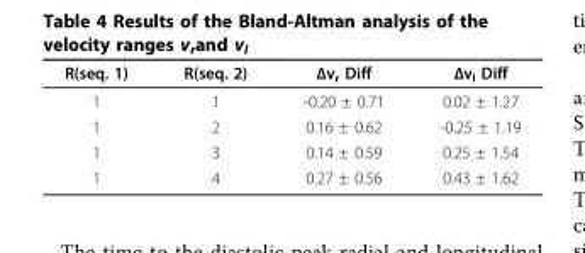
<table><thead><tr><td>R(seq. 1)</td><td>R(seq. 2)</td><td>Δv<sub>r</sub> Diff</td><td>Δv<sub>l</sub> Diff</td></tr></thead><tbody><tr><td>1</td><td>1</td><td>-0.20 ± 0.71</td><td>0.02 ± 1.27</td></tr><tr><td>1</td><td>2</td><td>0.16 ± 0.62</td><td>-0.25 ± 1.19</td></tr><tr><td>1</td><td>3</td><td>0.14 ± 0.59</td><td>0.25 ± 1.54</td></tr><tr><td>1</td><td>4</td><td>0.27 ± 0.56</td><td>0.43 ± 1.62</td></tr></tbody></table>